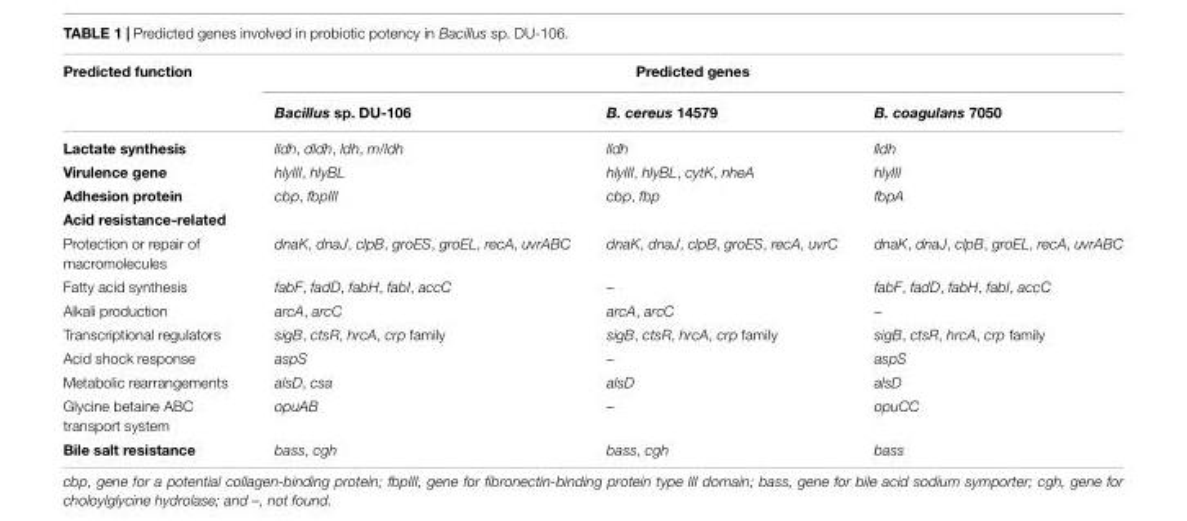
<table><thead><tr><td rowspan="2">Predicted function</td><td colspan="3">Predicted genes</td></tr><tr><td>Bacillus sp. DU-106</td><td>B. cereus 14579</td><td>B. coagulans 7050</td></tr></thead><tbody><tr><td>Lactate synthesis</td><td>lldh, dldh, ldh, m/ldh</td><td>lldh</td><td>lldh</td></tr><tr><td>Virulence gene</td><td>hlyIII, hlyBL</td><td>hlyIII, hlyBL, cytK, nheA</td><td>hlyIII</td></tr><tr><td>Adhesion protein</td><td>cbp, fbpIII</td><td>cbp, fbp</td><td>fbpA</td></tr><tr><td colspan="4">Acid resistance-related</td></tr><tr><td>Protection or repair of macromolecules</td><td>dnaK, dnaJ, clpB, groES, groEL, recA, uvrABC</td><td>dnaK, dnaJ, clpB, groES, recA, uvrC</td><td>dnaK, dnaJ, clpB, groEL, recA, uvrABC</td></tr><tr><td>Fatty acid synthesis</td><td>fabF, fadD, fabH, fabI, accC</td><td>–</td><td>fabF, fadD, fabH, fabI, accC</td></tr><tr><td>Alkali production</td><td>arcA, arcC</td><td>arcA, arcC</td><td>–</td></tr><tr><td>Transcriptional regulators</td><td>sigB, ctsR, hrcA, crp family</td><td>sigB, ctsR, hrcA, crp family</td><td>sigB, ctsR, hrcA, crp family</td></tr><tr><td>Acid shock response</td><td>aspS</td><td>–</td><td>aspS</td></tr><tr><td>Metabolic rearrangements</td><td>alsD, csa</td><td>alsD</td><td>alsD</td></tr><tr><td>Glycine betaine ABC transport system</td><td>opuAB</td><td>–</td><td>opuCC</td></tr><tr><td>Bile salt resistance</td><td>bass, cgh</td><td>bass, cgh</td><td>bass</td></tr></tbody></table>